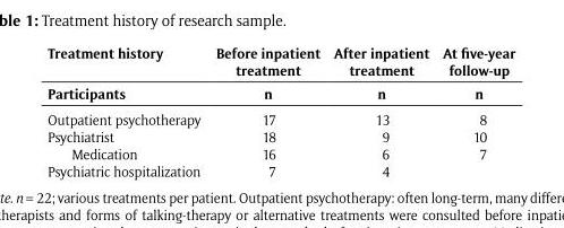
<table><thead><tr><td rowspan="2">Treatment history Participants</td><td rowspan="2">Before inpatient treatment n</td><td rowspan="2">After inpatient treatment n</td><td rowspan="2">At five-year follow-up n</td></tr><tr></tr></thead><tbody><tr><td>Outpatient psychotherapy</td><td>17</td><td>13</td><td>8</td></tr><tr><td>Psychiatrist</td><td>18</td><td>9</td><td>10</td></tr><tr><td>Medication</td><td>16</td><td>6</td><td>7</td></tr><tr><td>Psychiatric hospitalization</td><td>7</td><td>4</td><td></td></tr></tbody></table>